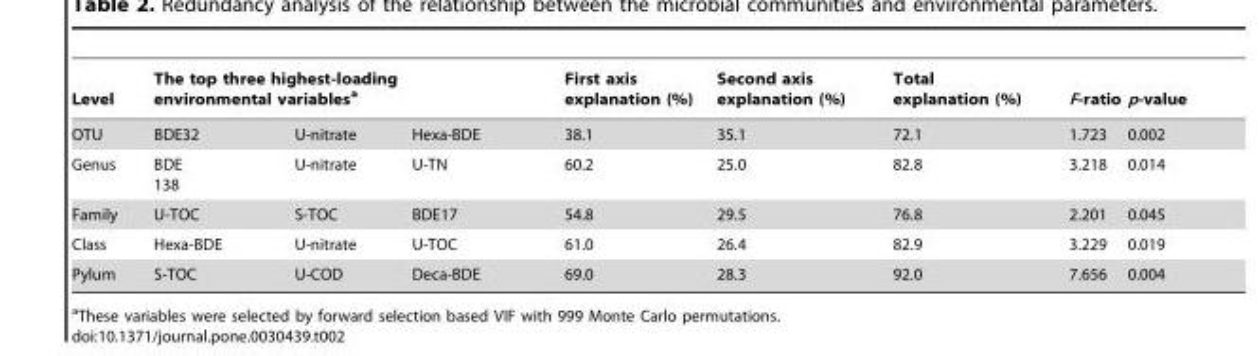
<table><thead><tr><td rowspan="2">Level OTU</td><td colspan="3">The top three highest-loading environmental variables<sup>a</sup></td><td rowspan="2">First axis explanation (%) 38.1</td><td rowspan="2">Second axis explanation (%) 35.1</td><td rowspan="2">Total explanation (%) 72.1</td><td rowspan="2">F-ratio 1.723</td><td rowspan="2">p-value 0.002</td></tr><tr><td>BDE32</td><td>U-nitrate</td><td>Hexa-BDE</td></tr></thead><tbody><tr><td>Genus</td><td>BDE 138</td><td>U-nitrate</td><td>U-TN</td><td>60.2</td><td>25.0</td><td>82.8</td><td>3.218</td><td>0.014</td></tr><tr><td>Family</td><td>U-TOC</td><td>S-TOC</td><td>BDE17</td><td>54.8</td><td>29.5</td><td>76.8</td><td>2.201</td><td>0.045</td></tr><tr><td>Class</td><td>Hexa-BDE</td><td>U-nitrate</td><td>U-TOC</td><td>61.0</td><td>26.4</td><td>82.9</td><td>3.229</td><td>0.019</td></tr><tr><td>Pylum</td><td>S-TOC</td><td>U-COD</td><td>Deca-BDE</td><td>69.0</td><td>28.3</td><td>92.0</td><td>7.656</td><td>0.004</td></tr></tbody></table>